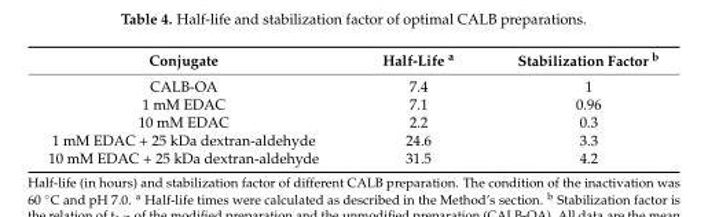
<table><thead><tr><td>Conjugate</td><td>Half-Life <sup>a</sup></td><td>Stabilization Factor <sup>b</sup></td></tr></thead><tbody><tr><td>CALB-OA</td><td>7.4</td><td>1</td></tr><tr><td>1 mM EDAC</td><td>7.1</td><td>0.96</td></tr><tr><td>10 mM EDAC</td><td>2.2</td><td>0.3</td></tr><tr><td>1 mM EDAC + 25 kDa dextran-aldehyde</td><td>24.6</td><td>3.3</td></tr><tr><td>10 mM EDAC + 25 kDa dextran-aldehyde</td><td>31.5</td><td>4.2</td></tr></tbody></table>